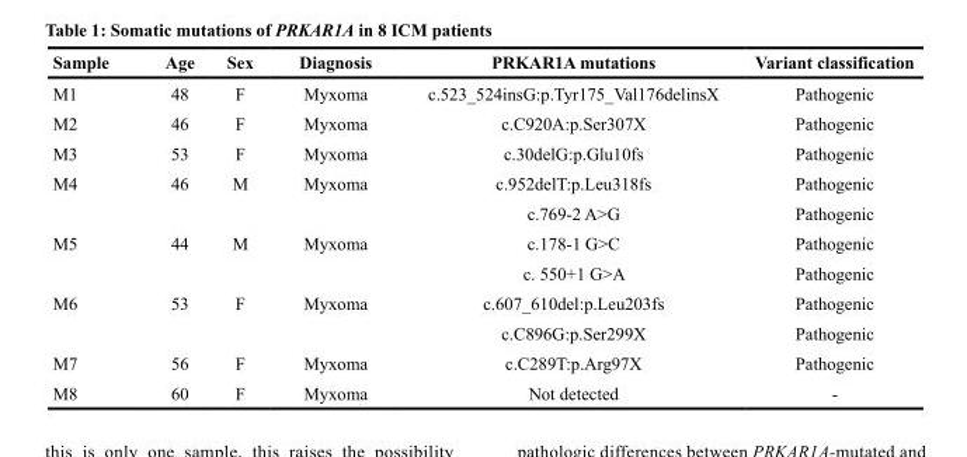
<table><thead><tr><td>Sample</td><td>Age</td><td>Sex</td><td>Diagnosis</td><td>PRKAR1A mutations</td><td>Variant classification</td></tr></thead><tbody><tr><td>M1</td><td>48</td><td>F</td><td>Myxoma</td><td>c.523_524insG:p.Tyr175_Val176delinsX</td><td>Pathogenic</td></tr><tr><td>M2</td><td>46</td><td>F</td><td>Myxoma</td><td>c.C920A:p.Ser307X</td><td>Pathogenic</td></tr><tr><td>M3</td><td>53</td><td>F</td><td>Myxoma</td><td>c.30delG:p.Glu10fs</td><td>Pathogenic</td></tr><tr><td rowspan="2">M4</td><td>46</td><td>M</td><td>Myxoma</td><td>c.952delT:p.Leu318fs</td><td>Pathogenic</td></tr><tr><td></td><td></td><td></td><td>c.769-2 A&gt;G</td><td>Pathogenic</td></tr><tr><td rowspan="2">M5</td><td>44</td><td>M</td><td>Myxoma</td><td>c.178-1 G&gt;C</td><td>Pathogenic</td></tr><tr><td></td><td></td><td></td><td>c. 550+1 G&gt;A</td><td>Pathogenic</td></tr><tr><td rowspan="2">M6</td><td>53</td><td>F</td><td>Myxoma</td><td>c.607_610del:p.Leu203fs</td><td>Pathogenic</td></tr><tr><td></td><td></td><td></td><td>c.C896G:p.Ser299X</td><td>Pathogenic</td></tr><tr><td>M7</td><td>56</td><td>F</td><td>Myxoma</td><td>c.C289T:p.Arg97X</td><td>Pathogenic</td></tr><tr><td>M8</td><td>60</td><td>F</td><td>Myxoma</td><td>Not detected</td><td>-</td></tr></tbody></table>